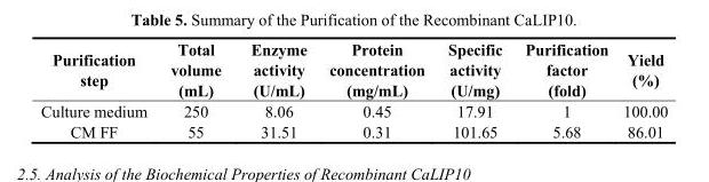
<table><thead><tr><td>Purification step</td><td>Total volume (mL)</td><td>Enzyme activity (U/mL)</td><td>Protein concentration (mg/mL)</td><td>Specific activity (U/mg)</td><td>Purification factor (fold)</td><td>Yield (%)</td></tr></thead><tbody><tr><td>Culture medium</td><td>250</td><td>8.06</td><td>0.45</td><td>17.91</td><td>1</td><td>100.00</td></tr><tr><td>CM FF</td><td>55</td><td>31.51</td><td>0.31</td><td>101.65</td><td>5.68</td><td>86.01</td></tr></tbody></table>